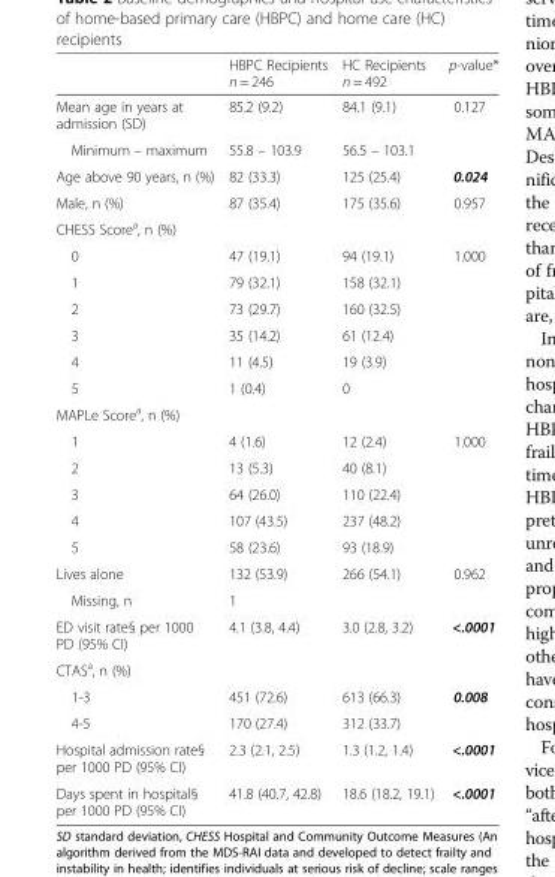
<table><thead><tr><td></td><td>HBPC Recipients n = 246</td><td>HC Recipients n = 492</td><td>p-value*</td></tr></thead><tbody><tr><td>Mean age in years at admission (SD)</td><td>85.2 (9.2)</td><td>84.1 (9.1)</td><td>0.127</td></tr><tr><td>Minimum – maximum</td><td>55.8 – 103.9</td><td>56.5 – 103.1</td><td></td></tr><tr><td>Age above 90 years, n (%)</td><td>82 (33.3)</td><td>125 (25.4)</td><td>0.024</td></tr><tr><td>Male, n (%)</td><td>87 (35.4)</td><td>175 (35.6)</td><td>0.957</td></tr><tr><td colspan="4">CHESS Score<sup>a</sup>, n (%)</td></tr><tr><td>0</td><td>47 (19.1)</td><td>94 (19.1)</td><td>1.000</td></tr><tr><td>1</td><td>79 (32.1)</td><td>158 (32.1)</td><td></td></tr><tr><td>2</td><td>73 (29.7)</td><td>160 (32.5)</td><td></td></tr><tr><td>3</td><td>35 (14.2)</td><td>61 (12.4)</td><td></td></tr><tr><td>4</td><td>11 (4.5)</td><td>19 (3.9)</td><td></td></tr><tr><td>5</td><td>1 (0.4)</td><td>0</td><td></td></tr><tr><td colspan="4">MAPLe Score<sup>a</sup>, n (%)</td></tr><tr><td>1</td><td>4 (1.6)</td><td>12 (2.4)</td><td>1.000</td></tr><tr><td>2</td><td>13 (5.3)</td><td>40 (8.1)</td><td></td></tr><tr><td>3</td><td>64 (26.0)</td><td>110 (22.4)</td><td></td></tr><tr><td>4</td><td>107 (43.5)</td><td>237 (48.2)</td><td></td></tr><tr><td>5</td><td>58 (23.6)</td><td>93 (18.9)</td><td></td></tr><tr><td>Lives alone</td><td>132 (53.9)</td><td>266 (54.1)</td><td>0.962</td></tr><tr><td>Missing, n</td><td>1</td><td></td><td></td></tr><tr><td>ED visit rate§ per 1000 PD (95% CI)</td><td>4.1 (3.8, 4.4)</td><td>3.0 (2.8, 3.2)</td><td>&lt;.0001</td></tr><tr><td colspan="4">CTAS<sup>a</sup>, n (%)</td></tr><tr><td>1-3</td><td>451 (72.6)</td><td>613 (66.3)</td><td>0.008</td></tr><tr><td>4-5</td><td>170 (27.4)</td><td>312 (33.7)</td><td></td></tr><tr><td>Hospital admission rate§ per 1000 PD (95% CI)</td><td>2.3 (2.1, 2.5)</td><td>1.3 (1.2, 1.4)</td><td>&lt;.0001</td></tr><tr><td>Days spent in hospital§ per 1000 PD (95% CI)</td><td>41.8 (40.7, 42.8)</td><td>18.6 (18.2, 19.1)</td><td>&lt;.0001</td></tr></tbody></table>